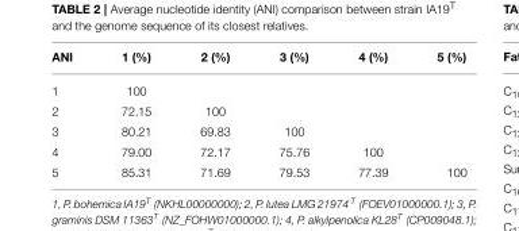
<table><thead><tr><td>ANI</td><td>1 (%)</td><td>2 (%)</td><td>3 (%)</td><td>4 (%)</td><td>5 (%)</td></tr></thead><tbody><tr><td>1</td><td>100</td><td></td><td></td><td></td><td></td></tr><tr><td>2</td><td>72.15</td><td>100</td><td></td><td></td><td></td></tr><tr><td>3</td><td>80.21</td><td>69.83</td><td>100</td><td></td><td></td></tr><tr><td>4</td><td>79.00</td><td>72.17</td><td>75.76</td><td>100</td><td></td></tr><tr><td>5</td><td>85.31</td><td>71.69</td><td>79.53</td><td>77.39</td><td>100</td></tr></tbody></table>